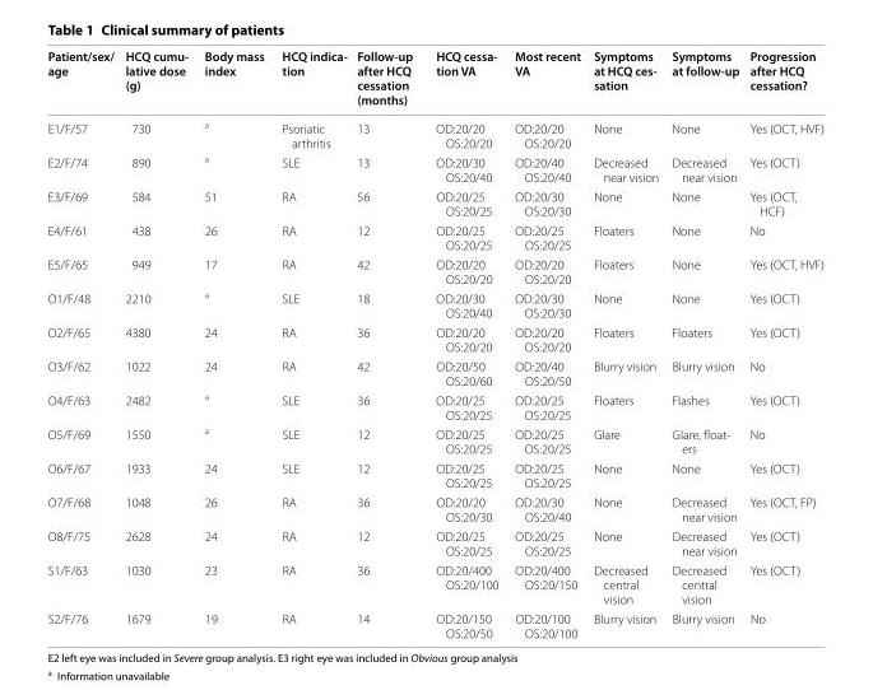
<table><thead><tr><td>Patient/sex/ age</td><td>HCQ cumu‑ lative dose (g)</td><td>Body mass index</td><td>HCQ indica‑ tion</td><td>Follow‑up after HCQ cessation (months)</td><td>HCQ cessa‑ tion VA</td><td>Most recent VA</td><td>Symptoms at HCQ ces‑ sation</td><td>Symptoms at follow‑up</td><td>Progression after HCQ cessation?</td></tr></thead><tbody><tr><td>E1/F/57</td><td>730</td><td><sup>a</sup></td><td>Psoriatic arthritis</td><td>13</td><td>OD:20/20 OS:20/20</td><td>OD:20/20 OS:20/20</td><td>None</td><td>None</td><td>Yes (OCT, HVF)</td></tr><tr><td>E2/F/74</td><td>890</td><td><sup>a</sup></td><td>SLE</td><td>13</td><td>OD:20/30 OS:20/40</td><td>OD:20/40 OS:20/40</td><td>Decreased near vision</td><td>Decreased near vision</td><td>Yes (OCT)</td></tr><tr><td>E3/F/69</td><td>584</td><td>51</td><td>RA</td><td>56</td><td>OD:20/25 OS:20/25</td><td>OD:20/30 OS:20/30</td><td>None</td><td>None</td><td>Yes (OCT, HCF)</td></tr><tr><td>E4/F/61</td><td>438</td><td>26</td><td>RA</td><td>12</td><td>OD:20/25 OS:20/25</td><td>OD:20/25 OS:20/25</td><td>Floaters</td><td>None</td><td>No</td></tr><tr><td>E5/F/65</td><td>949</td><td>17</td><td>RA</td><td>42</td><td>OD:20/20 OS:20/20</td><td>OD:20/20 OS:20/20</td><td>Floaters</td><td>None</td><td>Yes (OCT, HVF)</td></tr><tr><td>O1/F/48</td><td>2210</td><td><sup>a</sup></td><td>SLE</td><td>18</td><td>OD:20/30 OS:20/40</td><td>OD:20/30 OS:20/30</td><td>None</td><td>None</td><td>Yes (OCT)</td></tr><tr><td>O2/F/65</td><td>4380</td><td>24</td><td>RA</td><td>36</td><td>OD:20/20 OS:20/20</td><td>OD:20/20 OS:20/20</td><td>Floaters</td><td>Floaters</td><td>Yes (OCT)</td></tr><tr><td>O3/F/62</td><td>1022</td><td>24</td><td>RA</td><td>42</td><td>OD:20/50 OS:20/60</td><td>OD:20/40 OS:20/50</td><td>Blurry vision</td><td>Blurry vision</td><td>No</td></tr><tr><td>O4/F/63</td><td>2482</td><td><sup>a</sup></td><td>SLE</td><td>36</td><td>OD:20/25 OS:20/25</td><td>OD:20/25 OS:20/25</td><td>Floaters</td><td>Flashes</td><td>Yes (OCT)</td></tr><tr><td>O5/F/69</td><td>1550</td><td><sup>a</sup></td><td>SLE</td><td>12</td><td>OD:20/25 OS:20/25</td><td>OD:20/25 OS:20/25</td><td>Glare</td><td>Glare, float- ers</td><td>No</td></tr><tr><td>O6/F/67</td><td>1933</td><td>24</td><td>SLE</td><td>12</td><td>OD:20/25 OS:20/25</td><td>OD:20/25 OS:20/25</td><td>None</td><td>None</td><td>Yes (OCT)</td></tr><tr><td>O7/F/68</td><td>1048</td><td>26</td><td>RA</td><td>36</td><td>OD:20/20 OS:20/30</td><td>OD:20/30 OS:20/40</td><td>None</td><td>Decreased near vision</td><td>Yes (OCT, FP)</td></tr><tr><td>O8/F/75</td><td>2628</td><td>24</td><td>RA</td><td>12</td><td>OD:20/25 OS:20/25</td><td>OD:20/25 OS:20/25</td><td>None</td><td>Decreased near vision</td><td>Yes (OCT)</td></tr><tr><td>S1/F/63</td><td>1030</td><td>23</td><td>RA</td><td>36</td><td>OD:20/400 OS:20/100</td><td>OD:20/400 OS:20/150</td><td>Decreased central vision</td><td>Decreased central vision</td><td>Yes (OCT)</td></tr><tr><td>S2/F/76</td><td>1679</td><td>19</td><td>RA</td><td>14</td><td>OD:20/150 OS:20/50</td><td>OD:20/100 OS:20/100</td><td>Blurry vision</td><td>Blurry vision</td><td>No</td></tr></tbody></table>